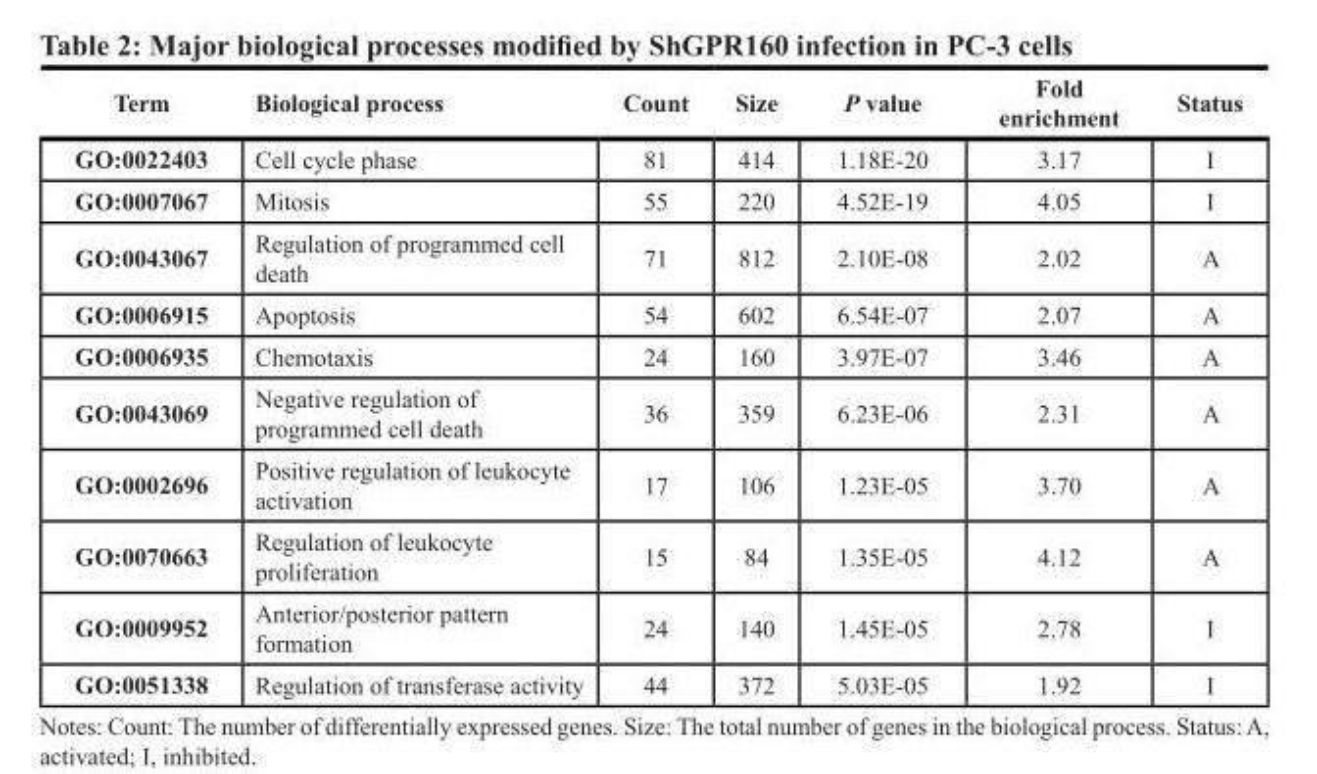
<table><thead><tr><td>Term</td><td>Biological process</td><td>Count</td><td>Size</td><td>P value</td><td>Fold enrichment</td><td>Status</td></tr></thead><tbody><tr><td>GO:0022403</td><td>Cell cycle phase</td><td>81</td><td>414</td><td>1.18E-20</td><td>3.17</td><td>I</td></tr><tr><td>GO:0007067</td><td>Mitosis</td><td>55</td><td>220</td><td>4.52E-19</td><td>4.05</td><td>I</td></tr><tr><td>GO:0043067</td><td>Regulation of programmed cell death</td><td>71</td><td>812</td><td>2.10E-08</td><td>2.02</td><td>A</td></tr><tr><td>GO:0006915</td><td>Apoptosis</td><td>54</td><td>602</td><td>6.54E-07</td><td>2.07</td><td>A</td></tr><tr><td>GO:0006935</td><td>Chemotaxis</td><td>24</td><td>160</td><td>3.97E-07</td><td>3.46</td><td>A</td></tr><tr><td>GO:0043069</td><td>Negative regulation of programmed cell death</td><td>36</td><td>359</td><td>6.23E-06</td><td>2.31</td><td>A</td></tr><tr><td>GO:0002696</td><td>Positive regulation of leukocyte activation</td><td>17</td><td>106</td><td>1.23E-05</td><td>3.70</td><td>A</td></tr><tr><td>GO:0070663</td><td>Regulation of leukocyte proliferation</td><td>15</td><td>84</td><td>1.35E-05</td><td>4.12</td><td>A</td></tr><tr><td>GO:0009952</td><td>Anterior/posterior pattern formation</td><td>24</td><td>140</td><td>1.45E-05</td><td>2.78</td><td>I</td></tr><tr><td>GO:0051338</td><td>Regulation of transferase activity</td><td>44</td><td>372</td><td>5.03E-05</td><td>1.92</td><td>I</td></tr></tbody></table>